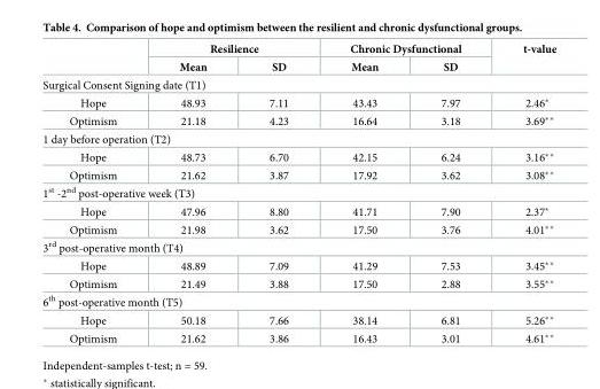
<table><thead><tr><td rowspan="2"></td><td colspan="2">Resilience</td><td colspan="2">Chronic Dysfunctional</td><td rowspan="2">t-value</td></tr><tr><td>Mean</td><td>SD</td><td>Mean</td><td>SD</td></tr></thead><tbody><tr><td colspan="6">Surgical Consent Signing date (T1)</td></tr><tr><td>Hope</td><td>48.93</td><td>7.11</td><td>43.43</td><td>7.97</td><td>2.46*</td></tr><tr><td>Optimism</td><td>21.18</td><td>4.23</td><td>16.64</td><td>3.18</td><td>3.69**</td></tr><tr><td colspan="6">1 day before operation (T2)</td></tr><tr><td>Hope</td><td>48.73</td><td>6.70</td><td>42.15</td><td>6.24</td><td>3.16**</td></tr><tr><td>Optimism</td><td>21.62</td><td>3.87</td><td>17.92</td><td>3.62</td><td>3.08**</td></tr><tr><td colspan="6">1<sup>st</sup> -2<sup>nd</sup> post-operative week (T3)</td></tr><tr><td>Hope</td><td>47.96</td><td>8.80</td><td>41.71</td><td>7.90</td><td>2.37*</td></tr><tr><td>Optimism</td><td>21.98</td><td>3.62</td><td>17.50</td><td>3.76</td><td>4.01**</td></tr><tr><td colspan="6">3<sup>rd</sup> post-operative month (T4)</td></tr><tr><td>Hope</td><td>48.89</td><td>7.09</td><td>41.29</td><td>7.53</td><td>3.45**</td></tr><tr><td>Optimism</td><td>21.49</td><td>3.88</td><td>17.50</td><td>2.88</td><td>3.55**</td></tr><tr><td colspan="6">6<sup>th</sup> post-operative month (T5)</td></tr><tr><td>Hope</td><td>50.18</td><td>7.66</td><td>38.14</td><td>6.81</td><td>5.26**</td></tr><tr><td>Optimism</td><td>21.62</td><td>3.86</td><td>16.43</td><td>3.01</td><td>4.61**</td></tr></tbody></table>